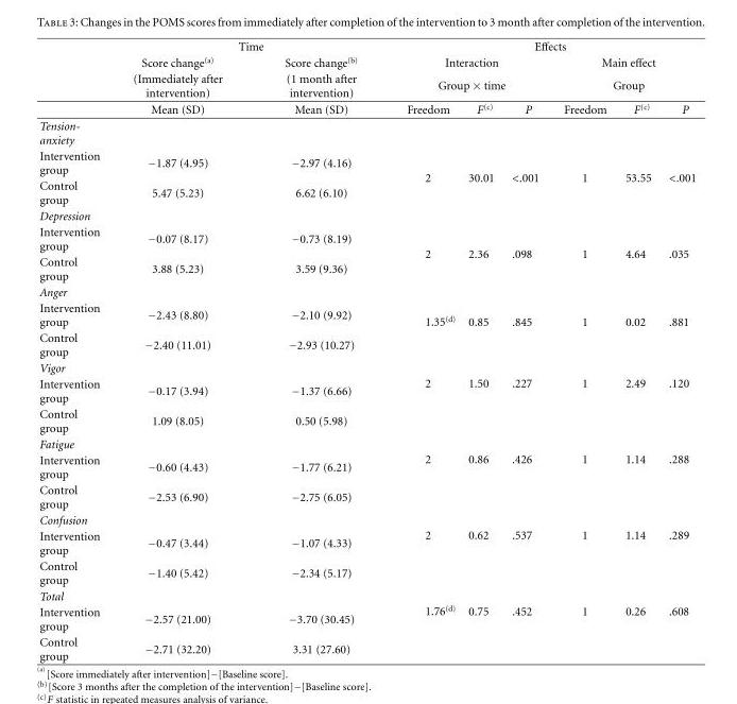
<table><thead><tr><td rowspan="4"></td><td colspan="2">Time</td><td colspan="6">Effects</td></tr><tr><td rowspan="3">Score change(a) (Immediately after intervention) Mean (SD)</td><td rowspan="3">Score change(b) (1 month after intervention) Mean (SD)</td><td rowspan="2" colspan="3">Interaction Group × time</td><td rowspan="2" colspan="3">Main effect Group</td></tr><tr></tr><tr><td>Freedom</td><td>F(c)</td><td>P</td><td>Freedom</td><td>F(c)</td><td>P</td></tr></thead><tbody><tr><td colspan="9">Tension- anxiety</td></tr><tr><td>Intervention group</td><td>−1.87 (4.95)</td><td>−2.97 (4.16)</td><td rowspan="3">2</td><td rowspan="3">30.01</td><td rowspan="3">&lt;.001</td><td rowspan="3">1</td><td rowspan="3">53.55</td><td rowspan="3">&lt;.001</td></tr><tr><td>Control group</td><td>5.47 (5.23)</td><td>6.62 (6.10)</td></tr><tr><td colspan="3">Depression</td></tr><tr><td>Intervention group</td><td>−0.07 (8.17)</td><td>−0.73 (8.19)</td><td rowspan="3">2</td><td rowspan="3">2.36</td><td rowspan="3">.098</td><td rowspan="3">1</td><td rowspan="3">4.64</td><td rowspan="3">.035</td></tr><tr><td>Control group</td><td>3.88 (5.23)</td><td>3.59 (9.36)</td></tr><tr><td colspan="3">Anger</td></tr><tr><td>Intervention group</td><td>−2.43 (8.80)</td><td>−2.10 (9.92)</td><td rowspan="2">1.35<sup>(d)</sup></td><td rowspan="2">0.85</td><td rowspan="2">.845</td><td rowspan="2">1</td><td rowspan="2">0.02</td><td rowspan="2">.881</td></tr><tr><td>Control group</td><td>−2.40 (11.01)</td><td>−2.93 (10.27)</td></tr><tr><td colspan="3">Vigor</td><td rowspan="3">2</td><td rowspan="3">1.50</td><td rowspan="3">.227</td><td rowspan="3">1</td><td rowspan="3">2.49</td><td rowspan="3">.120</td></tr><tr><td>Intervention group</td><td>−0.17 (3.94)</td><td>−1.37 (6.66)</td></tr><tr><td>Control group</td><td>1.09 (8.05)</td><td>0.50 (5.98)</td></tr><tr><td colspan="3">Fatigue</td><td rowspan="3">2</td><td rowspan="3">0.86</td><td rowspan="3">.426</td><td rowspan="3">1</td><td rowspan="3">1.14</td><td rowspan="3">.288</td></tr><tr><td>Intervention group</td><td>−0.60 (4.43)</td><td>−1.77 (6.21)</td></tr><tr><td>Control group</td><td>−2.53 (6.90)</td><td>−2.75 (6.05)</td></tr><tr><td colspan="3">Confusion</td><td rowspan="3">2</td><td rowspan="3">0.62</td><td rowspan="3">.537</td><td rowspan="3">1</td><td rowspan="3">1.14</td><td rowspan="3">.289</td></tr><tr><td>Intervention group</td><td>−0.47 (3.44)</td><td>−1.07 (4.33)</td></tr><tr><td>Control group</td><td>−1.40 (5.42)</td><td>−2.34 (5.17)</td></tr><tr><td colspan="3">Total</td><td rowspan="3">1.76<sup>(d)</sup></td><td rowspan="3">0.75</td><td rowspan="3">.452</td><td rowspan="3">1</td><td rowspan="3">0.26</td><td rowspan="3">.608</td></tr><tr><td>Intervention group</td><td>−2.57 (21.00)</td><td>−3.70 (30.45)</td></tr><tr><td>Control group</td><td>−2.71 (32.20)</td><td>3.31 (27.60)</td></tr></tbody></table>